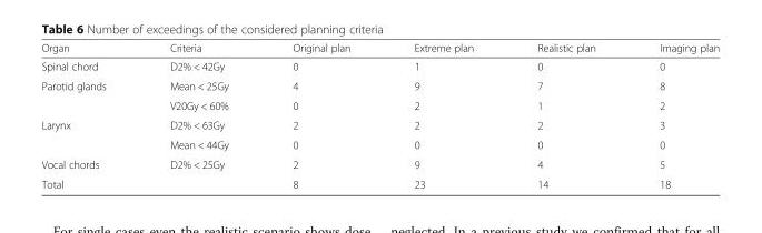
<table><thead><tr><td>Organ</td><td>Criteria</td><td>Original plan</td><td>Extreme plan</td><td>Realistic plan</td><td>Imaging plan</td></tr></thead><tbody><tr><td>Spinal chord</td><td>D2% &lt; 42Gy</td><td>0</td><td>1</td><td>0</td><td>0</td></tr><tr><td rowspan="2">Parotid glands</td><td>Mean &lt; 25Gy</td><td>4</td><td>9</td><td>7</td><td>8</td></tr><tr><td>V20Gy &lt; 60%</td><td>0</td><td>2</td><td>1</td><td>2</td></tr><tr><td rowspan="2">Larynx</td><td>D2% &lt; 63Gy</td><td>2</td><td>2</td><td>2</td><td>3</td></tr><tr><td>Mean &lt; 44Gy</td><td>0</td><td>0</td><td>0</td><td>0</td></tr><tr><td>Vocal chords</td><td>D2% &lt; 25Gy</td><td>2</td><td>9</td><td>4</td><td>5</td></tr><tr><td>Total</td><td></td><td>8</td><td>23</td><td>14</td><td>18</td></tr></tbody></table>